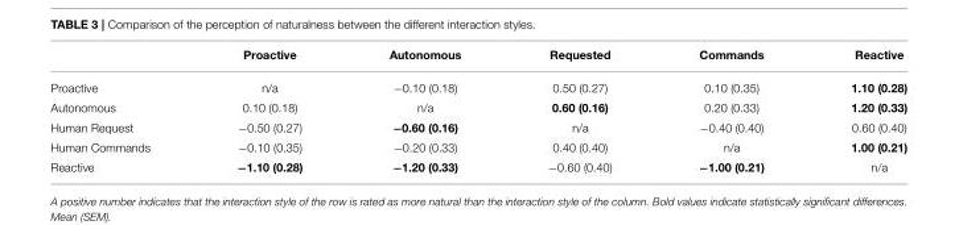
<table><thead><tr><td></td><td>Proactive</td><td>Autonomous</td><td>Requested</td><td>Commands</td><td>Reactive</td></tr></thead><tbody><tr><td>Proactive</td><td>n/a</td><td>−0.10 (0.18)</td><td>0.50 (0.27)</td><td>0.10 (0.35)</td><td>1.10 (0.28)</td></tr><tr><td>Autonomous</td><td>0.10 (0.18)</td><td>n/a</td><td>0.60 (0.16)</td><td>0.20 (0.33)</td><td>1.20 (0.33)</td></tr><tr><td>Human Request</td><td>−0.50 (0.27)</td><td>−0.60 (0.16)</td><td>n/a</td><td>−0.40 (0.40)</td><td>0.60 (0.40)</td></tr><tr><td>Human Commands</td><td>−0.10 (0.35)</td><td>−0.20 (0.33)</td><td>0.40 (0.40)</td><td>n/a</td><td>1.00 (0.21)</td></tr><tr><td>Reactive</td><td>−1.10 (0.28)</td><td>−1.20 (0.33)</td><td>−0.60 (0.40)</td><td>−1.00 (0.21)</td><td>n/a</td></tr></tbody></table>